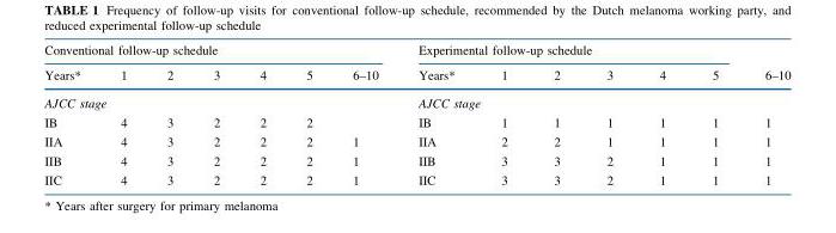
<table><thead><tr><td colspan="7">Conventional follow-up schedule</td><td colspan="6">Experimental follow-up schedule</td><td rowspan="2">6–10</td></tr><tr><td>Years*</td><td>1</td><td>2</td><td>3</td><td>4</td><td>5</td><td>6–10</td><td>Years*</td><td>1</td><td>2</td><td>3</td><td>4</td><td>5</td></tr></thead><tbody><tr><td colspan="7">AJCC stage</td><td colspan="7">AJCC stage</td></tr><tr><td>IB</td><td>4</td><td>3</td><td>2</td><td>2</td><td>2</td><td></td><td>IB</td><td>1</td><td>1</td><td>1</td><td>1</td><td>1</td><td>1</td></tr><tr><td>IIA</td><td>4</td><td>3</td><td>2</td><td>2</td><td>2</td><td>1</td><td>IIA</td><td>2</td><td>2</td><td>1</td><td>1</td><td>1</td><td>1</td></tr><tr><td>IIB</td><td>4</td><td>3</td><td>2</td><td>2</td><td>2</td><td>1</td><td>IIB</td><td>3</td><td>3</td><td>2</td><td>1</td><td>1</td><td>1</td></tr><tr><td>IIC</td><td>4</td><td>3</td><td>2</td><td>2</td><td>2</td><td>1</td><td>IIC</td><td>3</td><td>3</td><td>2</td><td>1</td><td>1</td><td>1</td></tr></tbody></table>